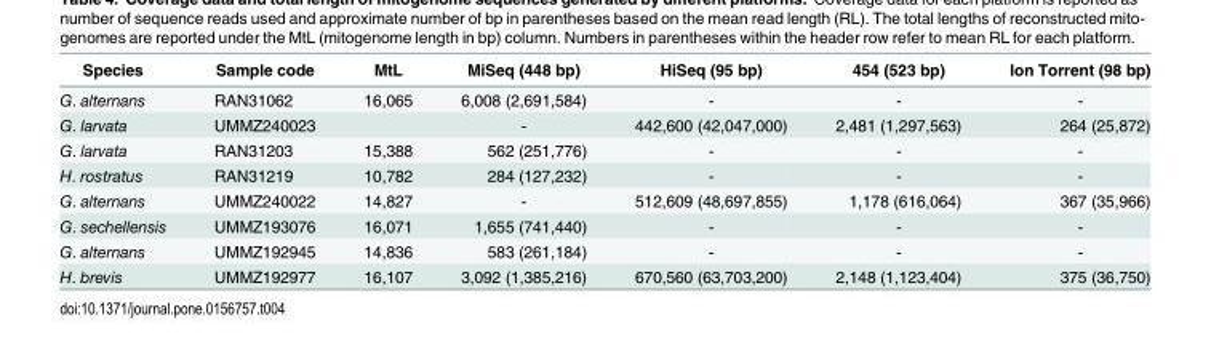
<table><thead><tr><td>Species</td><td>Sample code</td><td>MtL</td><td>MiSeq (448 bp)</td><td>HiSeq (95 bp)</td><td>454 (523 bp)</td><td>Ion Torrent (98 bp)</td></tr></thead><tbody><tr><td>G. alternans</td><td>RAN31062</td><td>16,065</td><td>6,008 (2,691,584)</td><td>-</td><td>-</td><td>-</td></tr><tr><td>G. larvata</td><td>UMMZ240023</td><td></td><td>-</td><td>442,600 (42,047,000)</td><td>2,481 (1,297,563)</td><td>264 (25,872)</td></tr><tr><td>G. larvata</td><td>RAN31203</td><td>15,388</td><td>562 (251,776)</td><td>-</td><td>-</td><td>-</td></tr><tr><td>H. rostratus</td><td>RAN31219</td><td>10,782</td><td>284 (127,232)</td><td>-</td><td>-</td><td>-</td></tr><tr><td>G. alternans</td><td>UMMZ240022</td><td>14,827</td><td>-</td><td>512,609 (48,697,855)</td><td>1,178 (616,064)</td><td>367 (35,966)</td></tr><tr><td>G. sechellensis</td><td>UMMZ193076</td><td>16,071</td><td>1,655 (741,440)</td><td>-</td><td>-</td><td>-</td></tr><tr><td>G. alternans</td><td>UMMZ192945</td><td>14,836</td><td>583 (261,184)</td><td>-</td><td>-</td><td>-</td></tr><tr><td>H. brevis</td><td>UMMZ192977</td><td>16,107</td><td>3,092 (1,385,216)</td><td>670,560 (63,703,200)</td><td>2,148 (1,123,404)</td><td>375 (36,750)</td></tr></tbody></table>